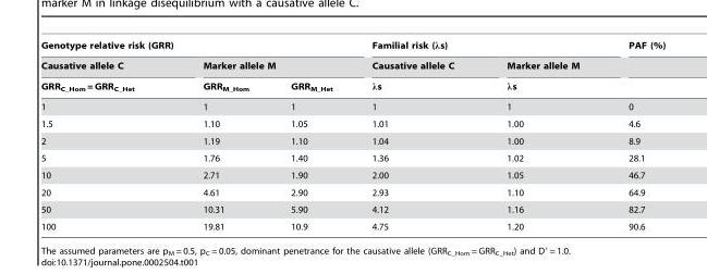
<table><thead><tr><td colspan="3">Genotype relative risk (GRR)</td><td colspan="2">Familial risk (λs)</td><td rowspan="3">PAF (%)</td></tr><tr><td rowspan="2">Causative allele C GRR<sub>C_Hom</sub> = GRR<sub>C_Het</sub></td><td colspan="2">Marker allele M</td><td rowspan="2">Causative allele C λs</td><td rowspan="2">Marker allele M λs</td></tr><tr><td>GRR<sub>M_Hom</sub></td><td>GRR<sub>M_Het</sub></td></tr></thead><tbody><tr><td>1</td><td>1</td><td>1</td><td>1</td><td>1</td><td>0</td></tr><tr><td>1.5</td><td>1.10</td><td>1.05</td><td>1.01</td><td>1.00</td><td>4.6</td></tr><tr><td>2</td><td>1.19</td><td>1.10</td><td>1.04</td><td>1.00</td><td>8.9</td></tr><tr><td>5</td><td>1.76</td><td>1.40</td><td>1.36</td><td>1.02</td><td>28.1</td></tr><tr><td>10</td><td>2.71</td><td>1.90</td><td>2.00</td><td>1.05</td><td>46.7</td></tr><tr><td>20</td><td>4.61</td><td>2.90</td><td>2.93</td><td>1.10</td><td>64.9</td></tr><tr><td>50</td><td>10.31</td><td>5.90</td><td>4.12</td><td>1.16</td><td>82.7</td></tr><tr><td>100</td><td>19.81</td><td>10.9</td><td>4.75</td><td>1.20</td><td>90.6</td></tr></tbody></table>